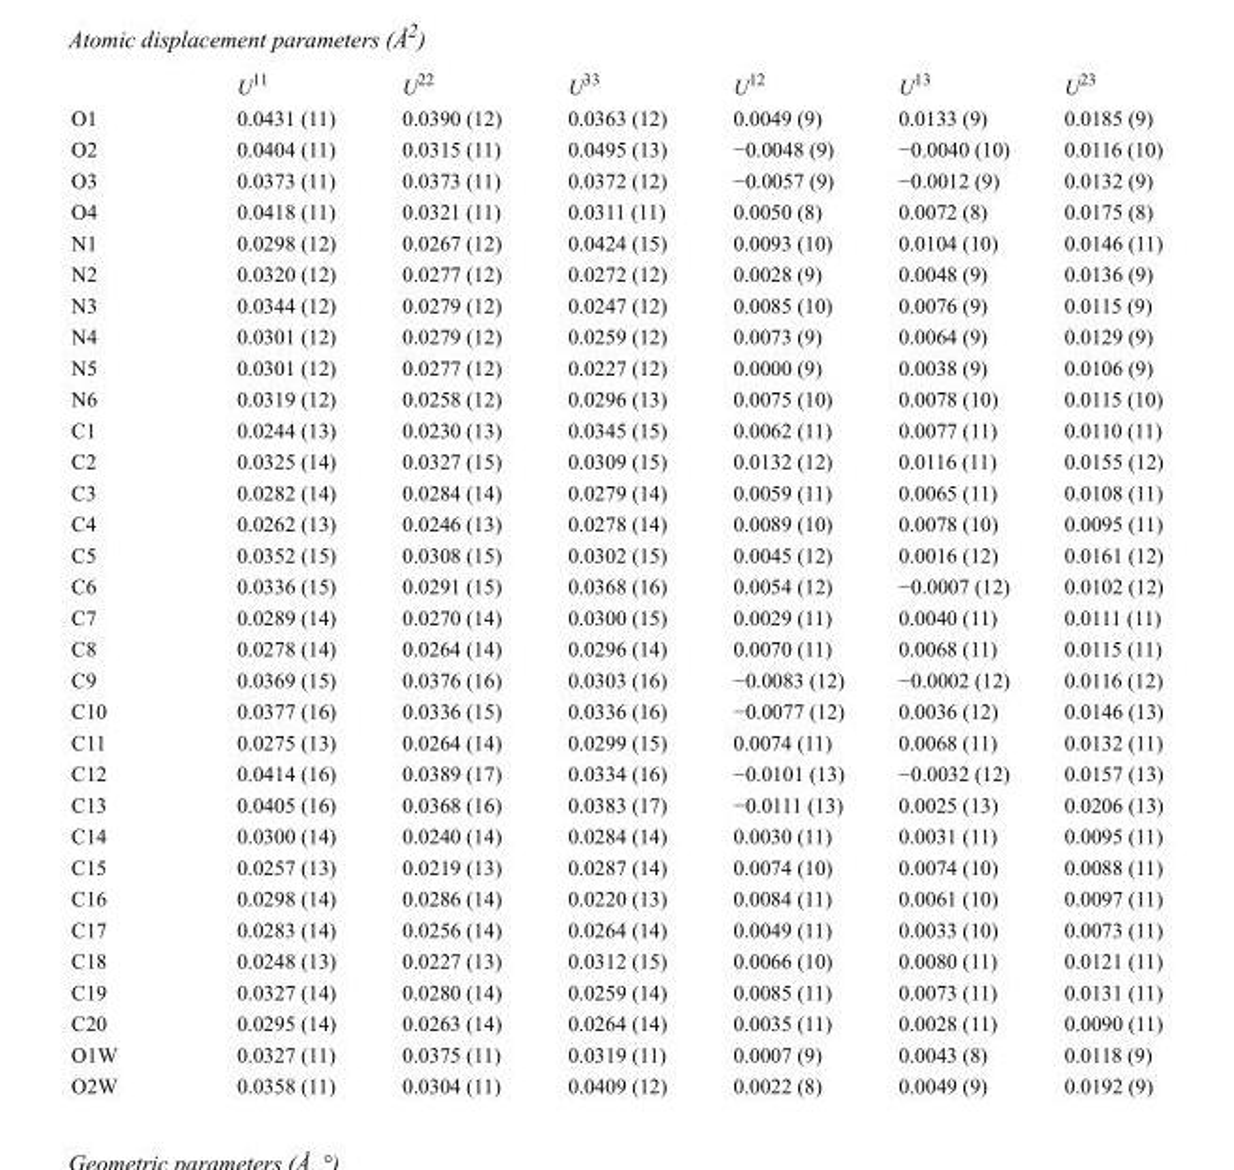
<table><thead><tr><td></td><td>U<sup>11</sup></td><td>U<sup>22</sup></td><td>U<sup>33</sup></td><td>U<sup>12</sup></td><td>U<sup>13</sup></td><td>U<sup>23</sup></td></tr></thead><tbody><tr><td>O1</td><td>0.0431 (11)</td><td>0.0390 (12)</td><td>0.0363 (12)</td><td>0.0049 (9)</td><td>0.0133 (9)</td><td>0.0185 (9)</td></tr><tr><td>O2</td><td>0.0404 (11)</td><td>0.0315 (11)</td><td>0.0495 (13)</td><td>−0.0048 (9)</td><td>−0.0040 (10)</td><td>0.0116 (10)</td></tr><tr><td>O3</td><td>0.0373 (11)</td><td>0.0373 (11)</td><td>0.0372 (12)</td><td>−0.0057 (9)</td><td>−0.0012 (9)</td><td>0.0132 (9)</td></tr><tr><td>O4</td><td>0.0418 (11)</td><td>0.0321 (11)</td><td>0.0311 (11)</td><td>0.0050 (8)</td><td>0.0072 (8)</td><td>0.0175 (8)</td></tr><tr><td>N1</td><td>0.0298 (12)</td><td>0.0267 (12)</td><td>0.0424 (15)</td><td>0.0093 (10)</td><td>0.0104 (10)</td><td>0.0146 (11)</td></tr><tr><td>N2</td><td>0.0320 (12)</td><td>0.0277 (12)</td><td>0.0272 (12)</td><td>0.0028 (9)</td><td>0.0048 (9)</td><td>0.0136 (9)</td></tr><tr><td>N3</td><td>0.0344 (12)</td><td>0.0279 (12)</td><td>0.0247 (12)</td><td>0.0085 (10)</td><td>0.0076 (9)</td><td>0.0115 (9)</td></tr><tr><td>N4</td><td>0.0301 (12)</td><td>0.0279 (12)</td><td>0.0259 (12)</td><td>0.0073 (9)</td><td>0.0064 (9)</td><td>0.0129 (9)</td></tr><tr><td>N5</td><td>0.0301 (12)</td><td>0.0277 (12)</td><td>0.0227 (12)</td><td>0.0000 (9)</td><td>0.0038 (9)</td><td>0.0106 (9)</td></tr><tr><td>N6</td><td>0.0319 (12)</td><td>0.0258 (12)</td><td>0.0296 (13)</td><td>0.0075 (10)</td><td>0.0078 (10)</td><td>0.0115 (10)</td></tr><tr><td>C1</td><td>0.0244 (13)</td><td>0.0230 (13)</td><td>0.0345 (15)</td><td>0.0062 (11)</td><td>0.0077 (11)</td><td>0.0110 (11)</td></tr><tr><td>C2</td><td>0.0325 (14)</td><td>0.0327 (15)</td><td>0.0309 (15)</td><td>0.0132 (12)</td><td>0.0116 (11)</td><td>0.0155 (12)</td></tr><tr><td>C3</td><td>0.0282 (14)</td><td>0.0284 (14)</td><td>0.0279 (14)</td><td>0.0059 (11)</td><td>0.0065 (11)</td><td>0.0108 (11)</td></tr><tr><td>C4</td><td>0.0262 (13)</td><td>0.0246 (13)</td><td>0.0278 (14)</td><td>0.0089 (10)</td><td>0.0078 (10)</td><td>0.0095 (11)</td></tr><tr><td>C5</td><td>0.0352 (15)</td><td>0.0308 (15)</td><td>0.0302 (15)</td><td>0.0045 (12)</td><td>0.0016 (12)</td><td>0.0161 (12)</td></tr><tr><td>C6</td><td>0.0336 (15)</td><td>0.0291 (15)</td><td>0.0368 (16)</td><td>0.0054 (12)</td><td>−0.0007 (12)</td><td>0.0102 (12)</td></tr><tr><td>C7</td><td>0.0289 (14)</td><td>0.0270 (14)</td><td>0.0300 (15)</td><td>0.0029 (11)</td><td>0.0040 (11)</td><td>0.0111 (11)</td></tr><tr><td>C8</td><td>0.0278 (14)</td><td>0.0264 (14)</td><td>0.0296 (14)</td><td>0.0070 (11)</td><td>0.0068 (11)</td><td>0.0115 (11)</td></tr><tr><td>C9</td><td>0.0369 (15)</td><td>0.0376 (16)</td><td>0.0303 (16)</td><td>−0.0083 (12)</td><td>−0.0002 (12)</td><td>0.0116 (12)</td></tr><tr><td>C10</td><td>0.0377 (16)</td><td>0.0336 (15)</td><td>0.0336 (16)</td><td>−0.0077 (12)</td><td>0.0036 (12)</td><td>0.0146 (13)</td></tr><tr><td>C11</td><td>0.0275 (13)</td><td>0.0264 (14)</td><td>0.0299 (15)</td><td>0.0074 (11)</td><td>0.0068 (11)</td><td>0.0132 (11)</td></tr><tr><td>C12</td><td>0.0414 (16)</td><td>0.0389 (17)</td><td>0.0334 (16)</td><td>−0.0101 (13)</td><td>−0.0032 (12)</td><td>0.0157 (13)</td></tr><tr><td>C13</td><td>0.0405 (16)</td><td>0.0368 (16)</td><td>0.0383 (17)</td><td>−0.0111 (13)</td><td>0.0025 (13)</td><td>0.0206 (13)</td></tr><tr><td>C14</td><td>0.0300 (14)</td><td>0.0240 (14)</td><td>0.0284 (14)</td><td>0.0030 (11)</td><td>0.0031 (11)</td><td>0.0095 (11)</td></tr><tr><td>C15</td><td>0.0257 (13)</td><td>0.0219 (13)</td><td>0.0287 (14)</td><td>0.0074 (10)</td><td>0.0074 (10)</td><td>0.0088 (11)</td></tr><tr><td>C16</td><td>0.0298 (14)</td><td>0.0286 (14)</td><td>0.0220 (13)</td><td>0.0084 (11)</td><td>0.0061 (10)</td><td>0.0097 (11)</td></tr><tr><td>C17</td><td>0.0283 (14)</td><td>0.0256 (14)</td><td>0.0264 (14)</td><td>0.0049 (11)</td><td>0.0033 (10)</td><td>0.0073 (11)</td></tr><tr><td>C18</td><td>0.0248 (13)</td><td>0.0227 (13)</td><td>0.0312 (15)</td><td>0.0066 (10)</td><td>0.0080 (11)</td><td>0.0121 (11)</td></tr><tr><td>C19</td><td>0.0327 (14)</td><td>0.0280 (14)</td><td>0.0259 (14)</td><td>0.0085 (11)</td><td>0.0073 (11)</td><td>0.0131 (11)</td></tr><tr><td>C20</td><td>0.0295 (14)</td><td>0.0263 (14)</td><td>0.0264 (14)</td><td>0.0035 (11)</td><td>0.0028 (11)</td><td>0.0090 (11)</td></tr><tr><td>O1W</td><td>0.0327 (11)</td><td>0.0375 (11)</td><td>0.0319 (11)</td><td>0.0007 (9)</td><td>0.0043 (8)</td><td>0.0118 (9)</td></tr><tr><td>O2W</td><td>0.0358 (11)</td><td>0.0304 (11)</td><td>0.0409 (12)</td><td>0.0022 (8)</td><td>0.0049 (9)</td><td>0.0192 (9)</td></tr></tbody></table>